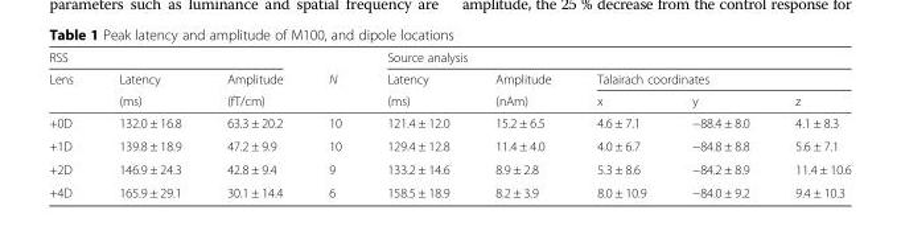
<table><thead><tr><td colspan="3">RSS</td><td rowspan="3">N</td><td colspan="5">Source analysis</td></tr><tr><td rowspan="2">Lens</td><td rowspan="2">Latency (ms)</td><td rowspan="2">Amplitude (fT/cm)</td><td rowspan="2">Latency (ms)</td><td rowspan="2">Amplitude (nAm)</td><td colspan="3">Talairach coordinates</td></tr><tr><td>x</td><td>y</td><td>z</td></tr></thead><tbody><tr><td>+0D</td><td>132.0 ± 16.8</td><td>63.3 ± 20.2</td><td>10</td><td>121.4 ± 12.0</td><td>15.2 ± 6.5</td><td>4.6 ± 7.1</td><td>−88.4 ± 8.0</td><td>4.1 ± 8.3</td></tr><tr><td>+1D</td><td>139.8 ± 18.9</td><td>47.2 ± 9.9</td><td>10</td><td>129.4 ± 12.8</td><td>11.4 ± 4.0</td><td>4.0 ± 6.7</td><td>−84.8 ± 8.8</td><td>5.6 ± 7.1</td></tr><tr><td>+2D</td><td>146.9 ± 24.3</td><td>42.8 ± 9.4</td><td>9</td><td>133.2 ± 14.6</td><td>8.9 ± 2.8</td><td>5.3 ± 8.6</td><td>−84.2 ± 8.9</td><td>11.4 ± 10.6</td></tr><tr><td>+4D</td><td>165.9 ± 29.1</td><td>30.1 ± 14.4</td><td>6</td><td>158.5 ± 18.9</td><td>8.2 ± 3.9</td><td>8.0 ± 10.9</td><td>−84.0 ± 9.2</td><td>9.4 ± 10.3</td></tr></tbody></table>